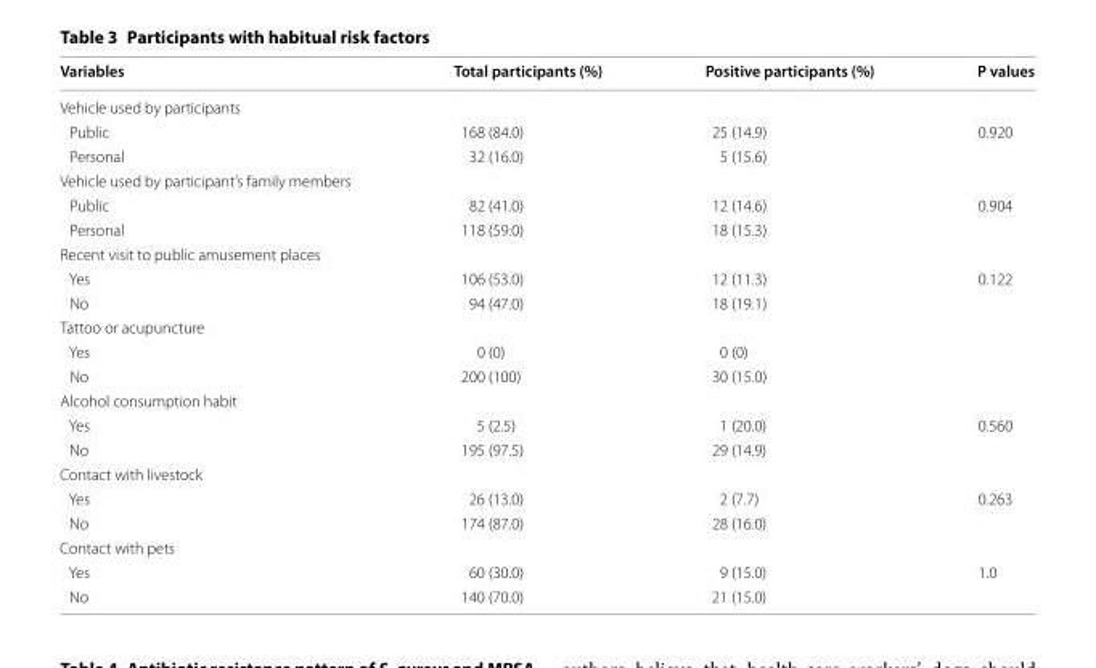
<table><thead><tr><td>Variables</td><td>Total participants (%)</td><td>Positive participants (%)</td><td>P values</td></tr></thead><tbody><tr><td colspan="4">Vehicle used by participants</td></tr><tr><td>Public</td><td>168 (84.0)</td><td>25 (14.9)</td><td>0.920</td></tr><tr><td>Personal</td><td>32 (16.0)</td><td>5 (15.6)</td><td></td></tr><tr><td colspan="4">Vehicle used by participant’s family members</td></tr><tr><td>Public</td><td>82 (41.0)</td><td>12 (14.6)</td><td>0.904</td></tr><tr><td>Personal</td><td>118 (59.0)</td><td>18 (15.3)</td><td></td></tr><tr><td colspan="4">Recent visit to public amusement places</td></tr><tr><td>Yes</td><td>106 (53.0)</td><td>12 (11.3)</td><td>0.122</td></tr><tr><td>No</td><td>94 (47.0)</td><td>18 (19.1)</td><td></td></tr><tr><td colspan="4">Tattoo or acupuncture</td></tr><tr><td>Yes</td><td>0 (0)</td><td>0 (0)</td><td></td></tr><tr><td>No</td><td>200 (100)</td><td>30 (15.0)</td><td></td></tr><tr><td colspan="4">Alcohol consumption habit</td></tr><tr><td>Yes</td><td>5 (2.5)</td><td>1 (20.0)</td><td>0.560</td></tr><tr><td>No</td><td>195 (97.5)</td><td>29 (14.9)</td><td></td></tr><tr><td colspan="4">Contact with livestock</td></tr><tr><td>Yes</td><td>26 (13.0)</td><td>2 (7.7)</td><td>0.263</td></tr><tr><td>No</td><td>174 (87.0)</td><td>28 (16.0)</td><td></td></tr><tr><td colspan="4">Contact with pets</td></tr><tr><td>Yes</td><td>60 (30.0)</td><td>9 (15.0)</td><td>1.0</td></tr><tr><td>No</td><td>140 (70.0)</td><td>21 (15.0)</td><td></td></tr></tbody></table>